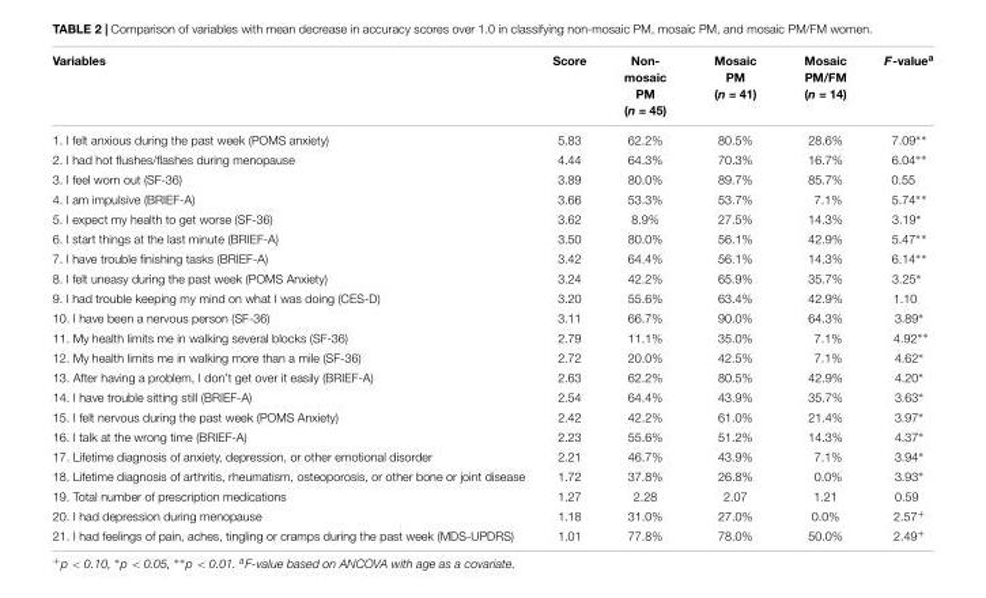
<table><thead><tr><td>Variables</td><td>Score</td><td>Non- mosaic PM (n = 45)</td><td>Mosaic PM (n = 41)</td><td>Mosaic PM/FM (n = 14)</td><td>F-value<sup>a</sup></td></tr></thead><tbody><tr><td>1. I felt anxious during the past week (POMS anxiety)</td><td>5.83</td><td>62.2%</td><td>80.5%</td><td>28.6%</td><td>7.09∗∗</td></tr><tr><td>2. I had hot flushes/flashes during menopause</td><td>4.44</td><td>64.3%</td><td>70.3%</td><td>16.7%</td><td>6.04∗∗</td></tr><tr><td>3. I feel worn out (SF-36)</td><td>3.89</td><td>80.0%</td><td>89.7%</td><td>85.7%</td><td>0.55</td></tr><tr><td>4. I am impulsive (BRIEF-A)</td><td>3.66</td><td>53.3%</td><td>53.7%</td><td>7.1%</td><td>5.74∗∗</td></tr><tr><td>5. I expect my health to get worse (SF-36)</td><td>3.62</td><td>8.9%</td><td>27.5%</td><td>14.3%</td><td>3.19∗</td></tr><tr><td>6. I start things at the last minute (BRIEF-A)</td><td>3.50</td><td>80.0%</td><td>56.1%</td><td>42.9%</td><td>5.47∗∗</td></tr><tr><td>7. I have trouble finishing tasks (BRIEF-A)</td><td>3.42</td><td>64.4%</td><td>56.1%</td><td>14.3%</td><td>6.14∗∗</td></tr><tr><td>8. I felt uneasy during the past week (POMS Anxiety)</td><td>3.24</td><td>42.2%</td><td>65.9%</td><td>35.7%</td><td>3.25∗</td></tr><tr><td>9. I had trouble keeping my mind on what I was doing (CES-D)</td><td>3.20</td><td>55.6%</td><td>63.4%</td><td>42.9%</td><td>1.10</td></tr><tr><td>10. I have been a nervous person (SF-36)</td><td>3.11</td><td>66.7%</td><td>90.0%</td><td>64.3%</td><td>3.89∗</td></tr><tr><td>11. My health limits me in walking several blocks (SF-36)</td><td>2.79</td><td>11.1%</td><td>35.0%</td><td>7.1%</td><td>4.92∗∗</td></tr><tr><td>12. My health limits me in walking more than a mile (SF-36)</td><td>2.72</td><td>20.0%</td><td>42.5%</td><td>7.1%</td><td>4.62∗</td></tr><tr><td>13. After having a problem, I don’t get over it easily (BRIEF-A)</td><td>2.63</td><td>62.2%</td><td>80.5%</td><td>42.9%</td><td>4.20∗</td></tr><tr><td>14. I have trouble sitting still (BRIEF-A)</td><td>2.54</td><td>64.4%</td><td>43.9%</td><td>35.7%</td><td>3.63∗</td></tr><tr><td>15. I felt nervous during the past week (POMS Anxiety)</td><td>2.42</td><td>42.2%</td><td>61.0%</td><td>21.4%</td><td>3.97∗</td></tr><tr><td>16. I talk at the wrong time (BRIEF-A)</td><td>2.23</td><td>55.6%</td><td>51.2%</td><td>14.3%</td><td>4.37∗</td></tr><tr><td>17. Lifetime diagnosis of anxiety, depression, or other emotional disorder</td><td>2.21</td><td>46.7%</td><td>43.9%</td><td>7.1%</td><td>3.94∗</td></tr><tr><td>18. Lifetime diagnosis of arthritis, rheumatism, osteoporosis, or other bone or joint disease</td><td>1.72</td><td>37.8%</td><td>26.8%</td><td>0.0%</td><td>3.93∗</td></tr><tr><td>19. Total number of prescription medications</td><td>1.27</td><td>2.28</td><td>2.07</td><td>1.21</td><td>0.59</td></tr><tr><td>20. I had depression during menopause</td><td>1.18</td><td>31.0%</td><td>27.0%</td><td>0.0%</td><td>2.57<sup>+</sup></td></tr><tr><td>21. I had feelings of pain, aches, tingling or cramps during the past week (MDS-UPDRS)</td><td>1.01</td><td>77.8%</td><td>78.0%</td><td>50.0%</td><td>2.49<sup>+</sup></td></tr></tbody></table>